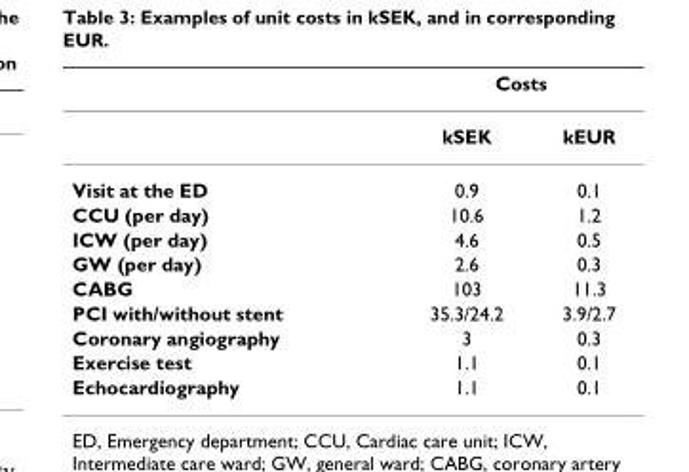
<table><thead><tr><td rowspan="2"></td><td colspan="2">Costs</td></tr><tr><td>kSEK</td><td>kEUR</td></tr></thead><tbody><tr><td>Visit at the ED</td><td>0.9</td><td>0.1</td></tr><tr><td>CCU (per day)</td><td>10.6</td><td>1.2</td></tr><tr><td>ICW (per day)</td><td>4.6</td><td>0.5</td></tr><tr><td>GW (per day)</td><td>2.6</td><td>0.3</td></tr><tr><td>CABG</td><td>103</td><td>11.3</td></tr><tr><td>PCI with/without stent</td><td>35.3/24.2</td><td>3.9/2.7</td></tr><tr><td>Coronary angiography</td><td>3</td><td>0.3</td></tr><tr><td>Exercise test</td><td>1.1</td><td>0.1</td></tr><tr><td>Echocardiography</td><td>1.1</td><td>0.1</td></tr></tbody></table>